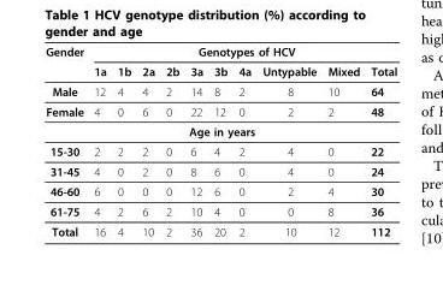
<table><thead><tr><td rowspan="2">Gender</td><td colspan="10">Genotypes of HCV</td></tr><tr><td>1a</td><td>1b</td><td>2a</td><td>2b</td><td>3a</td><td>3b</td><td>4a</td><td>Untypable</td><td>Mixed</td><td>Total</td></tr></thead><tbody><tr><td>Male</td><td>12</td><td>4</td><td>4</td><td>2</td><td>14</td><td>8</td><td>2</td><td>8</td><td>10</td><td>64</td></tr><tr><td>Female</td><td>4</td><td>0</td><td>6</td><td>0</td><td>22</td><td>12</td><td>0</td><td>2</td><td>2</td><td>48</td></tr><tr><td colspan="11">Age in years</td></tr><tr><td>15-30</td><td>2</td><td>2</td><td>2</td><td>0</td><td>6</td><td>4</td><td>2</td><td>4</td><td>0</td><td>22</td></tr><tr><td>31-45</td><td>4</td><td>0</td><td>2</td><td>0</td><td>8</td><td>6</td><td>0</td><td>4</td><td>0</td><td>24</td></tr><tr><td>46-60</td><td>6</td><td>0</td><td>0</td><td>0</td><td>12</td><td>6</td><td>0</td><td>2</td><td>4</td><td>30</td></tr><tr><td>61-75</td><td>4</td><td>2</td><td>6</td><td>2</td><td>10</td><td>4</td><td>0</td><td>0</td><td>8</td><td>36</td></tr><tr><td>Total</td><td>16</td><td>4</td><td>10</td><td>2</td><td>36</td><td>20</td><td>2</td><td>10</td><td>12</td><td>112</td></tr></tbody></table>